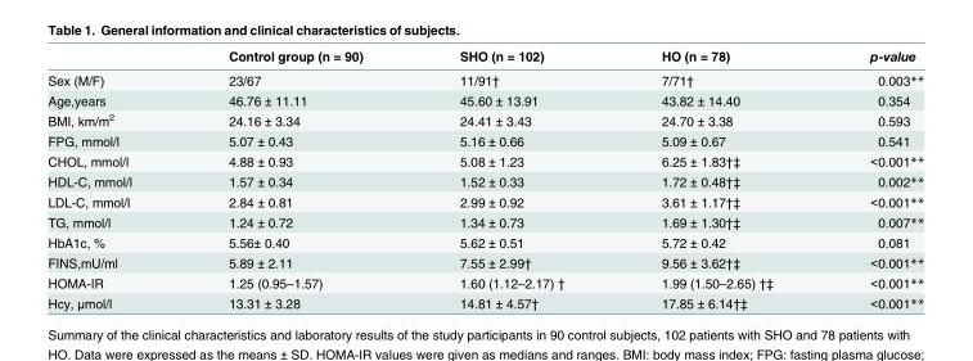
<table><thead><tr><td></td><td>Control group (n = 90)</td><td>SHO (n = 102)</td><td>HO (n = 78)</td><td>p-value</td></tr></thead><tbody><tr><td>Sex (M/F)</td><td>23/67</td><td>11/91†</td><td>7/71†</td><td>0.003**</td></tr><tr><td>Age,years</td><td>46.76 ± 11.11</td><td>45.60 ± 13.91</td><td>43.82 ± 14.40</td><td>0.354</td></tr><tr><td>BMI, km/m<sup>2</sup></td><td>24.16 ± 3.34</td><td>24.41 ± 3.43</td><td>24.70 ± 3.38</td><td>0.593</td></tr><tr><td>FPG, mmol/l</td><td>5.07 ± 0.43</td><td>5.16 ± 0.66</td><td>5.09 ± 0.67</td><td>0.541</td></tr><tr><td>CHOL, mmol/l</td><td>4.88 ± 0.93</td><td>5.08 ± 1.23</td><td>6.25 ± 1.83†‡</td><td>&lt;0.001**</td></tr><tr><td>HDL-C, mmol/l</td><td>1.57 ± 0.34</td><td>1.52 ± 0.33</td><td>1.72 ± 0.48†‡</td><td>0.002**</td></tr><tr><td>LDL-C, mmol/l</td><td>2.84 ± 0.81</td><td>2.99 ± 0.92</td><td>3.61 ± 1.17†‡</td><td>&lt;0.001**</td></tr><tr><td>TG, mmol/l</td><td>1.24 ± 0.72</td><td>1.34 ± 0.73</td><td>1.69 ± 1.30†‡</td><td>0.007**</td></tr><tr><td>HbA1c, %</td><td>5.56± 0.40</td><td>5.62 ± 0.51</td><td>5.72 ± 0.42</td><td>0.081</td></tr><tr><td>FINS,mU/ml</td><td>5.89 ± 2.11</td><td>7.55 ± 2.99†</td><td>9.56 ± 3.62†‡</td><td>&lt;0.001**</td></tr><tr><td>HOMA-IR</td><td>1.25 (0.95–1.57)</td><td>1.60 (1.12–2.17) †</td><td>1.99 (1.50–2.65) †‡</td><td>&lt;0.001**</td></tr><tr><td>Hcy, μmol/l</td><td>13.31 ± 3.28</td><td>14.81 ± 4.57†</td><td>17.85 ± 6.14†‡</td><td>&lt;0.001**</td></tr></tbody></table>